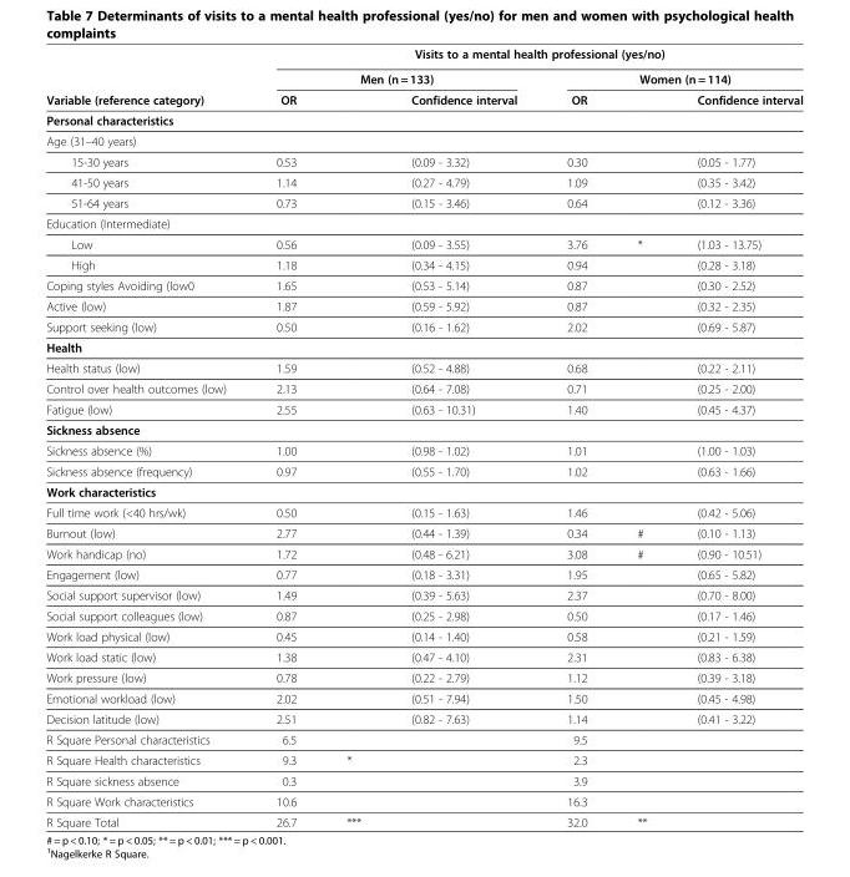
<table><thead><tr><td rowspan="3">Variable (reference category)</td><td colspan="6">Visits to a mental health professional (yes/no)</td></tr><tr><td colspan="3">Men (n = 133)</td><td colspan="3">Women (n = 114)</td></tr><tr><td>OR</td><td></td><td>Confidence interval</td><td>OR</td><td></td><td>Confidence interval</td></tr></thead><tbody><tr><td colspan="7">Personal characteristics</td></tr><tr><td colspan="7">Age (31–40 years)</td></tr><tr><td>15-30 years</td><td>0.53</td><td></td><td>(0.09 - 3.32)</td><td>0.30</td><td></td><td>(0.05 - 1.77)</td></tr><tr><td>41-50 years</td><td>1.14</td><td></td><td>(0.27 - 4.79)</td><td>1.09</td><td></td><td>(0.35 - 3.42)</td></tr><tr><td>51-64 years</td><td>0.73</td><td></td><td>(0.15 - 3.46)</td><td>0.64</td><td></td><td>(0.12 - 3.36)</td></tr><tr><td colspan="7">Education (Intermediate)</td></tr><tr><td>Low</td><td>0.56</td><td></td><td>(0.09 - 3.55)</td><td>3.76</td><td>*</td><td>(1.03 - 13.75)</td></tr><tr><td>High</td><td>1.18</td><td></td><td>(0.34 - 4.15)</td><td>0.94</td><td></td><td>(0.28 - 3.18)</td></tr><tr><td>Coping styles Avoiding (low0</td><td>1.65</td><td></td><td>(0.53 - 5.14)</td><td>0.87</td><td></td><td>(0.30 - 2.52)</td></tr><tr><td>Active (low)</td><td>1.87</td><td></td><td>(0.59 - 5.92)</td><td>0.87</td><td></td><td>(0.32 - 2.35)</td></tr><tr><td>Support seeking (low)</td><td>0.50</td><td></td><td>(0.16 - 1.62)</td><td>2.02</td><td></td><td>(0.69 - 5.87)</td></tr><tr><td colspan="7">Health</td></tr><tr><td>Health status (low)</td><td>1.59</td><td></td><td>(0.52 - 4.88)</td><td>0.68</td><td></td><td>(0.22 - 2.11)</td></tr><tr><td>Control over health outcomes (low)</td><td>2.13</td><td></td><td>(0.64 - 7.08)</td><td>0.71</td><td></td><td>(0.25 - 2.00)</td></tr><tr><td>Fatigue (low)</td><td>2.55</td><td></td><td>(0.63 - 10.31)</td><td>1.40</td><td></td><td>(0.45 - 4.37)</td></tr><tr><td colspan="7">Sickness absence</td></tr><tr><td>Sickness absence (%)</td><td>1.00</td><td></td><td>(0.98 - 1.02)</td><td>1.01</td><td></td><td>(1.00 - 1.03)</td></tr><tr><td>Sickness absence (frequency)</td><td>0.97</td><td></td><td>(0.55 - 1.70)</td><td>1.02</td><td></td><td>(0.63 - 1.66)</td></tr><tr><td colspan="7">Work characteristics</td></tr><tr><td>Full time work (&lt;40 hrs/wk)</td><td>0.50</td><td></td><td>(0.15 - 1.63)</td><td>1.46</td><td></td><td>(0.42 - 5.06)</td></tr><tr><td>Burnout (low)</td><td>2.77</td><td></td><td>(0.44 - 1.39)</td><td>0.34</td><td>#</td><td>(0.10 - 1.13)</td></tr><tr><td>Work handicap (no)</td><td>1.72</td><td></td><td>(0.48 - 6.21)</td><td>3.08</td><td>#</td><td>(0.90 - 10.51)</td></tr><tr><td>Engagement (low)</td><td>0.77</td><td></td><td>(0.18 - 3.31)</td><td>1.95</td><td></td><td>(0.65 - 5.82)</td></tr><tr><td>Social support supervisor (low)</td><td>1.49</td><td></td><td>(0.39 - 5.63)</td><td>2.37</td><td></td><td>(0.70 - 8.00)</td></tr><tr><td>Social support colleagues (low)</td><td>0.87</td><td></td><td>(0.25 - 2.98)</td><td>0.50</td><td></td><td>(0.17 - 1.46)</td></tr><tr><td>Work load physical (low)</td><td>0.45</td><td></td><td>(0.14 - 1.40)</td><td>0.58</td><td></td><td>(0.21 - 1.59)</td></tr><tr><td>Work load static (low)</td><td>1.38</td><td></td><td>(0.47 - 4.10)</td><td>2.31</td><td></td><td>(0.83 - 6.38)</td></tr><tr><td>Work pressure (low)</td><td>0.78</td><td></td><td>(0.22 - 2.79)</td><td>1.12</td><td></td><td>(0.39 - 3.18)</td></tr><tr><td>Emotional workload (low)</td><td>2.02</td><td></td><td>(0.51 - 7.94)</td><td>1.50</td><td></td><td>(0.45 - 4.98)</td></tr><tr><td>Decision latitude (low)</td><td>2.51</td><td></td><td>(0.82 - 7.63)</td><td>1.14</td><td></td><td>(0.41 - 3.22)</td></tr><tr><td>R Square Personal characteristics</td><td>6.5</td><td></td><td></td><td>9.5</td><td></td><td></td></tr><tr><td>R Square Health characteristics</td><td>9.3</td><td>*</td><td></td><td>2.3</td><td></td><td></td></tr><tr><td>R Square sickness absence</td><td>0.3</td><td></td><td></td><td>3.9</td><td></td><td></td></tr><tr><td>R Square Work characteristics</td><td>10.6</td><td></td><td></td><td>16.3</td><td></td><td></td></tr><tr><td>R Square Total</td><td>26.7</td><td>***</td><td></td><td>32.0</td><td>**</td><td></td></tr></tbody></table>